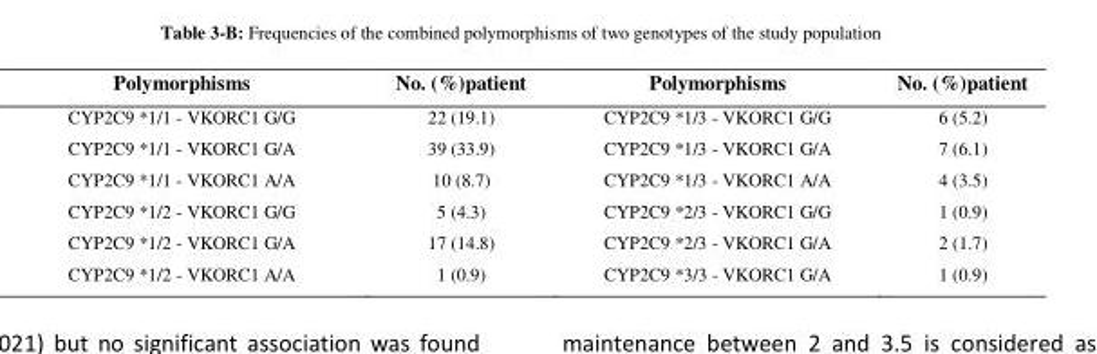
<table><thead><tr><td>Polymorphisms</td><td>No. (%)patient</td><td>Polymorphisms</td><td>No. (%)patient</td></tr></thead><tbody><tr><td>CYP2C9 *1/1 - VKORC1 G/G</td><td>22 (19.1)</td><td>CYP2C9 *1/3 - VKORC1 G/G</td><td>6 (5.2)</td></tr><tr><td>CYP2C9 *1/1 - VKORC1 G/A</td><td>39 (33.9)</td><td>CYP2C9 *1/3 - VKORC1 G/A</td><td>7 (6.1)</td></tr><tr><td>CYP2C9 *1/1 - VKORC1 A/A</td><td>10 (8.7)</td><td>CYP2C9 *1/3 - VKORC1 A/A</td><td>4 (3.5)</td></tr><tr><td>CYP2C9 *1/2 - VKORC1 G/G</td><td>5 (4.3)</td><td>CYP2C9 *2/3 - VKORC1 G/G</td><td>1 (0.9)</td></tr><tr><td>CYP2C9 *1/2 - VKORC1 G/A</td><td>17 (14.8)</td><td>CYP2C9 *2/3 - VKORC1 G/A</td><td>2 (1.7)</td></tr><tr><td>CYP2C9 *1/2 - VKORC1 A/A</td><td>1 (0.9)</td><td>CYP2C9 *3/3 - VKORC1 G/A</td><td>1 (0.9)</td></tr></tbody></table>